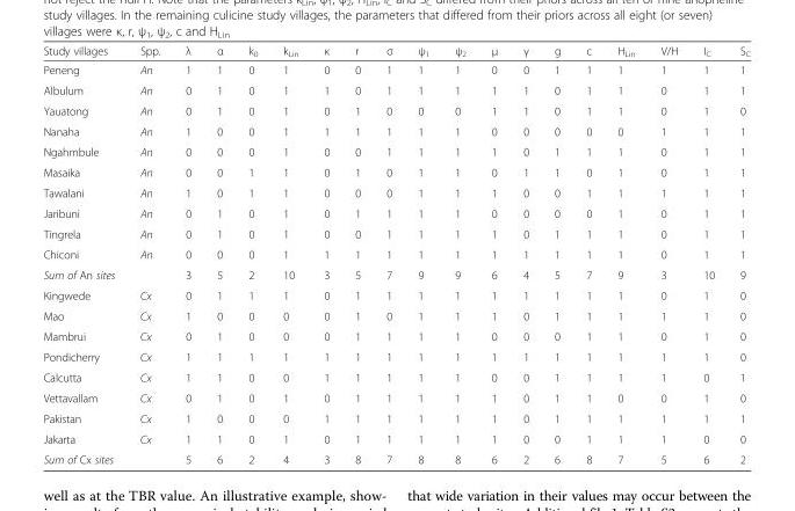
<table><thead><tr><td>Study villages</td><td>Spp.</td><td>λ</td><td>α</td><td>k<sub>0</sub></td><td>k<sub>Lin</sub></td><td>κ</td><td>r</td><td>σ</td><td>ψ<sub>1</sub></td><td>ψ<sub>2</sub></td><td>μ</td><td>γ</td><td>g</td><td>c</td><td>H<sub>Lin</sub></td><td>V/H</td><td>I<sub>C</sub></td><td>S<sub>C</sub></td></tr></thead><tbody><tr><td>Peneng</td><td>An</td><td>1</td><td>1</td><td>0</td><td>1</td><td>0</td><td>0</td><td>1</td><td>1</td><td>1</td><td>0</td><td>0</td><td>1</td><td>1</td><td>1</td><td>1</td><td>1</td><td>1</td></tr><tr><td>Albulum</td><td>An</td><td>0</td><td>1</td><td>0</td><td>1</td><td>1</td><td>0</td><td>1</td><td>1</td><td>1</td><td>1</td><td>1</td><td>0</td><td>1</td><td>1</td><td>0</td><td>1</td><td>1</td></tr><tr><td>Yauatong</td><td>An</td><td>0</td><td>1</td><td>0</td><td>1</td><td>0</td><td>1</td><td>0</td><td>0</td><td>0</td><td>1</td><td>1</td><td>0</td><td>1</td><td>1</td><td>0</td><td>1</td><td>0</td></tr><tr><td>Nanaha</td><td>An</td><td>1</td><td>0</td><td>0</td><td>1</td><td>1</td><td>1</td><td>1</td><td>1</td><td>1</td><td>0</td><td>0</td><td>0</td><td>0</td><td>0</td><td>1</td><td>1</td><td>1</td></tr><tr><td>Ngahmbule</td><td>An</td><td>0</td><td>0</td><td>0</td><td>1</td><td>0</td><td>0</td><td>1</td><td>1</td><td>1</td><td>1</td><td>0</td><td>1</td><td>1</td><td>1</td><td>0</td><td>1</td><td>1</td></tr><tr><td>Masaika</td><td>An</td><td>0</td><td>0</td><td>1</td><td>1</td><td>0</td><td>1</td><td>0</td><td>1</td><td>1</td><td>0</td><td>1</td><td>1</td><td>0</td><td>1</td><td>0</td><td>1</td><td>1</td></tr><tr><td>Tawalani</td><td>An</td><td>1</td><td>0</td><td>1</td><td>1</td><td>0</td><td>0</td><td>0</td><td>1</td><td>1</td><td>1</td><td>0</td><td>0</td><td>1</td><td>1</td><td>1</td><td>1</td><td>1</td></tr><tr><td>Jaribuni</td><td>An</td><td>0</td><td>1</td><td>0</td><td>1</td><td>0</td><td>1</td><td>1</td><td>1</td><td>1</td><td>0</td><td>0</td><td>0</td><td>0</td><td>1</td><td>0</td><td>1</td><td>1</td></tr><tr><td>Tingrela</td><td>An</td><td>0</td><td>1</td><td>0</td><td>1</td><td>0</td><td>0</td><td>1</td><td>1</td><td>1</td><td>1</td><td>0</td><td>1</td><td>1</td><td>1</td><td>0</td><td>1</td><td>1</td></tr><tr><td>Chiconi</td><td>An</td><td>0</td><td>0</td><td>0</td><td>1</td><td>1</td><td>1</td><td>1</td><td>1</td><td>1</td><td>1</td><td>1</td><td>1</td><td>1</td><td>1</td><td>0</td><td>1</td><td>1</td></tr><tr><td>Sum of An sites</td><td></td><td>3</td><td>5</td><td>2</td><td>10</td><td>3</td><td>5</td><td>7</td><td>9</td><td>9</td><td>6</td><td>4</td><td>5</td><td>7</td><td>9</td><td>3</td><td>10</td><td>9</td></tr><tr><td>Kingwede</td><td>Cx</td><td>0</td><td>1</td><td>1</td><td>1</td><td>0</td><td>1</td><td>1</td><td>1</td><td>1</td><td>1</td><td>1</td><td>1</td><td>1</td><td>1</td><td>0</td><td>1</td><td>0</td></tr><tr><td>Mao</td><td>Cx</td><td>1</td><td>0</td><td>0</td><td>0</td><td>0</td><td>1</td><td>0</td><td>1</td><td>1</td><td>1</td><td>0</td><td>1</td><td>1</td><td>1</td><td>1</td><td>1</td><td>0</td></tr><tr><td>Mambrui</td><td>Cx</td><td>0</td><td>1</td><td>0</td><td>0</td><td>0</td><td>1</td><td>1</td><td>1</td><td>1</td><td>0</td><td>0</td><td>0</td><td>1</td><td>1</td><td>0</td><td>1</td><td>0</td></tr><tr><td>Pondicherry</td><td>Cx</td><td>1</td><td>1</td><td>1</td><td>1</td><td>1</td><td>1</td><td>1</td><td>1</td><td>1</td><td>1</td><td>1</td><td>1</td><td>1</td><td>1</td><td>1</td><td>1</td><td>0</td></tr><tr><td>Calcutta</td><td>Cx</td><td>1</td><td>1</td><td>0</td><td>0</td><td>1</td><td>1</td><td>1</td><td>1</td><td>1</td><td>0</td><td>0</td><td>1</td><td>1</td><td>1</td><td>1</td><td>0</td><td>1</td></tr><tr><td>Vettavallam</td><td>Cx</td><td>0</td><td>1</td><td>0</td><td>1</td><td>0</td><td>1</td><td>1</td><td>1</td><td>1</td><td>1</td><td>0</td><td>1</td><td>1</td><td>0</td><td>0</td><td>1</td><td>0</td></tr><tr><td>Pakistan</td><td>Cx</td><td>1</td><td>0</td><td>0</td><td>0</td><td>1</td><td>1</td><td>1</td><td>1</td><td>1</td><td>1</td><td>0</td><td>1</td><td>1</td><td>1</td><td>1</td><td>1</td><td>1</td></tr><tr><td>Jakarta</td><td>Cx</td><td>1</td><td>1</td><td>0</td><td>1</td><td>0</td><td>1</td><td>1</td><td>1</td><td>1</td><td>1</td><td>0</td><td>0</td><td>1</td><td>1</td><td>1</td><td>0</td><td>0</td></tr><tr><td>Sum of Cx sites</td><td></td><td>5</td><td>6</td><td>2</td><td>4</td><td>3</td><td>8</td><td>7</td><td>8</td><td>8</td><td>6</td><td>2</td><td>6</td><td>8</td><td>7</td><td>5</td><td>6</td><td>2</td></tr></tbody></table>